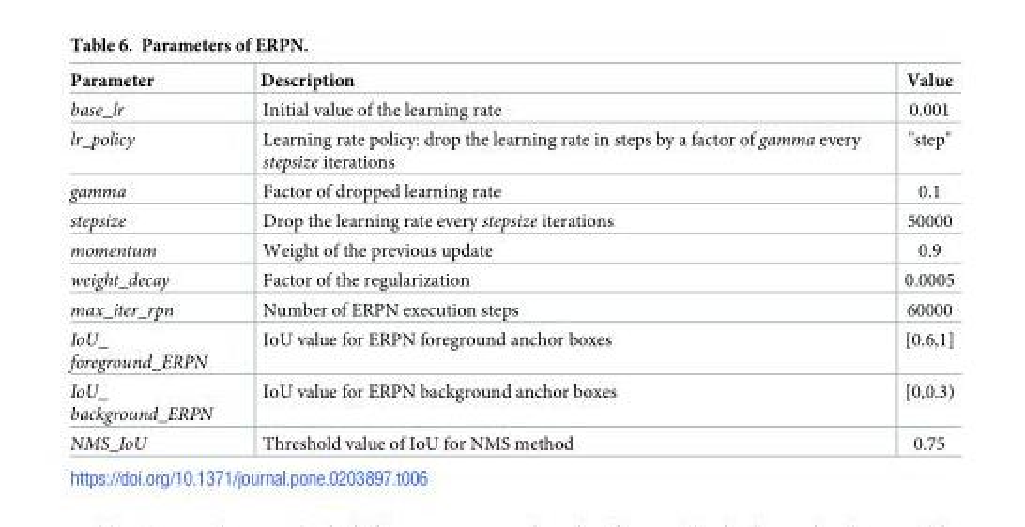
<table><thead><tr><td>Parameter</td><td>Description</td><td>Value</td></tr></thead><tbody><tr><td>base_lr</td><td>Initial value of the learning rate</td><td>0.001</td></tr><tr><td>lr_policy</td><td>Learning rate policy: drop the learning rate in steps by a factor of gamma every stepsize iterations</td><td>&quot;step&quot;</td></tr><tr><td>gamma</td><td>Factor of dropped learning rate</td><td>0.1</td></tr><tr><td>stepsize</td><td>Drop the learning rate every stepsize iterations</td><td>50000</td></tr><tr><td>momentum</td><td>Weight of the previous update</td><td>0.9</td></tr><tr><td>weight_decay</td><td>Factor of the regularization</td><td>0.0005</td></tr><tr><td>max_iter_rpn</td><td>Number of ERPN execution steps</td><td>60000</td></tr><tr><td>IoU_ foreground_ERPN</td><td>IoU value for ERPN foreground anchor boxes</td><td>[0.6,1]</td></tr><tr><td>IoU_ background_ERPN</td><td>IoU value for ERPN background anchor boxes</td><td>[0,0.3)</td></tr><tr><td>NMS_IoU</td><td>Threshold value of IoU for NMS method</td><td>0.75</td></tr></tbody></table>